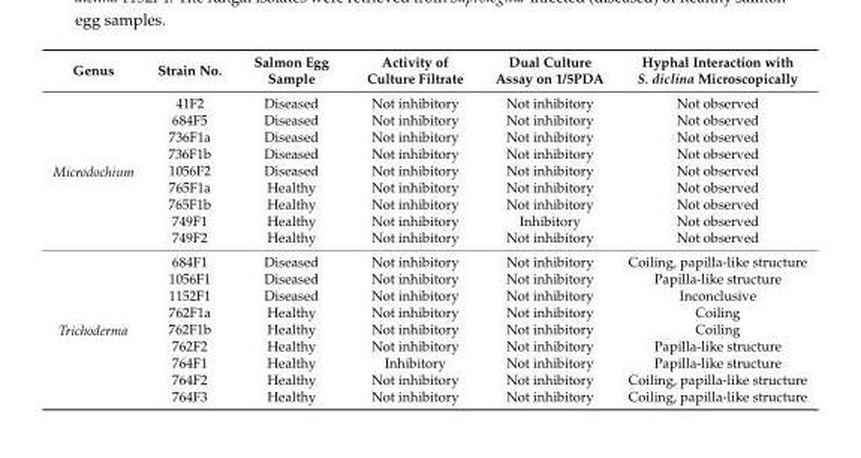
<table><thead><tr><td>Genus</td><td>Strain No.</td><td>Salmon Egg Sample</td><td>Activity of Culture Filtrate</td><td>Dual Culture Assay on 1/5PDA</td><td>Hyphal Interaction with S. diclina Microscopically</td></tr></thead><tbody><tr><td rowspan="9">Microdochium</td><td>41F2</td><td>Diseased</td><td>Not inhibitory</td><td>Not inhibitory</td><td>Not observed</td></tr><tr><td>684F5</td><td>Diseased</td><td>Not inhibitory</td><td>Not inhibitory</td><td>Not observed</td></tr><tr><td>736F1a</td><td>Diseased</td><td>Not inhibitory</td><td>Not inhibitory</td><td>Not observed</td></tr><tr><td>736F1b</td><td>Diseased</td><td>Not inhibitory</td><td>Not inhibitory</td><td>Not observed</td></tr><tr><td>1056F2</td><td>Diseased</td><td>Not inhibitory</td><td>Not inhibitory</td><td>Not observed</td></tr><tr><td>765F1a</td><td>Healthy</td><td>Not inhibitory</td><td>Not inhibitory</td><td>Not observed</td></tr><tr><td>765F1b</td><td>Healthy</td><td>Not inhibitory</td><td>Not inhibitory</td><td>Not observed</td></tr><tr><td>749F1</td><td>Healthy</td><td>Not inhibitory</td><td>Inhibitory</td><td>Not observed</td></tr><tr><td>749F2</td><td>Healthy</td><td>Not inhibitory</td><td>Not inhibitory</td><td>Not observed</td></tr><tr><td rowspan="9">Trichoderma</td><td>684F1</td><td>Diseased</td><td>Not inhibitory</td><td>Not inhibitory</td><td>Coiling, papilla-like structure</td></tr><tr><td>1056F1</td><td>Diseased</td><td>Not inhibitory</td><td>Not inhibitory</td><td>Papilla-like structure</td></tr><tr><td>1152F1</td><td>Diseased</td><td>Not inhibitory</td><td>Not inhibitory</td><td>Inconclusive</td></tr><tr><td>762F1a</td><td>Healthy</td><td>Not inhibitory</td><td>Not inhibitory</td><td>Coiling</td></tr><tr><td>762F1b</td><td>Healthy</td><td>Not inhibitory</td><td>Not inhibitory</td><td>Coiling</td></tr><tr><td>762F2</td><td>Healthy</td><td>Not inhibitory</td><td>Not inhibitory</td><td>Papilla-like structure</td></tr><tr><td>764F1</td><td>Healthy</td><td>Inhibitory</td><td>Not inhibitory</td><td>Papilla-like structure</td></tr><tr><td>764F2</td><td>Healthy</td><td>Not inhibitory</td><td>Not inhibitory</td><td>Coiling, papilla-like structure</td></tr><tr><td>764F3</td><td>Healthy</td><td>Not inhibitory</td><td>Not inhibitory</td><td>Coiling, papilla-like structure</td></tr></tbody></table>